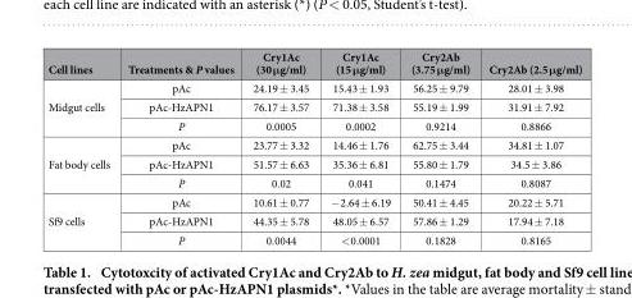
<table><thead><tr><td>Cell lines</td><td>Treatments &amp; P values</td><td>Cry1Ac (30 μg/ml)</td><td>Cry1Ac (15 μg/ml)</td><td>Cry2Ab (3.75 μg/ml)</td><td>Cry2Ab (2.5 μg/ml)</td></tr></thead><tbody><tr><td rowspan="3">Midgut cells</td><td>pAc</td><td>24.19 ± 3.45</td><td>15.43 ± 1.93</td><td>56.25 ± 9.79</td><td>28.01 ± 3.98</td></tr><tr><td>pAc-HzAPN1</td><td>76.17 ± 3.57</td><td>71.38 ± 3.58</td><td>55.19 ± 1.99</td><td>31.91 ± 7.92</td></tr><tr><td>P</td><td>0.0005</td><td>0.0002</td><td>0.9214</td><td>0.8866</td></tr><tr><td rowspan="3">Fat body cells</td><td>pAc</td><td>23.77 ± 3.32</td><td>14.46 ± 1.76</td><td>62.75 ± 3.44</td><td>34.81 ± 1.07</td></tr><tr><td>pAc-HzAPN1</td><td>51.57 ± 6.63</td><td>35.36 ± 6.81</td><td>55.80 ± 1.79</td><td>34.5 ± 3.86</td></tr><tr><td>P</td><td>0.02</td><td>0.041</td><td>0.1474</td><td>0.8087</td></tr><tr><td rowspan="3">Sf9 cells</td><td>pAc</td><td>10.61 ± 0.77</td><td>− 2.64 ± 6.19</td><td>50.41 ± 4.45</td><td>20.22 ± 5.71</td></tr><tr><td>pAc-HzAPN1</td><td>44.35 ± 5.78</td><td>48.05 ± 6.57</td><td>57.86 ± 1.29</td><td>17.94 ± 7.18</td></tr><tr><td>P</td><td>0.0044</td><td>&lt; 0.0001</td><td>0.1828</td><td>0.8165</td></tr></tbody></table>